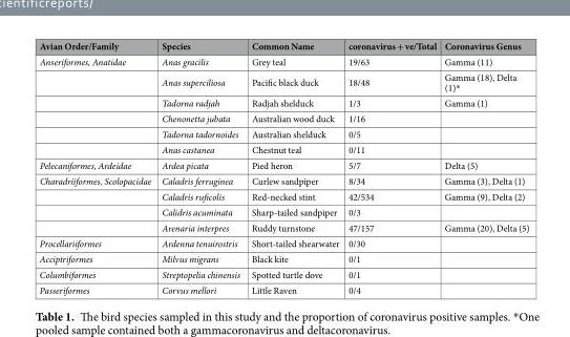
<table><thead><tr><td>Avian Order/Family</td><td>Species</td><td>Common Name</td><td>coronavirus + ve/Total</td><td>Coronavirus Genus</td></tr></thead><tbody><tr><td rowspan="6">Anseriformes, Anatidae</td><td>Anas gracilis</td><td>Grey teal</td><td>19/63</td><td>Gamma (11)</td></tr><tr><td>Anas superciliosa</td><td>Pacific black duck</td><td>18/48</td><td>Gamma (18), Delta (1)*</td></tr><tr><td>Tadorna radjah</td><td>Radjah shelduck</td><td>1/3</td><td>Gamma (1)</td></tr><tr><td>Chenonetta jubata</td><td>Australian wood duck</td><td>1/16</td><td></td></tr><tr><td>Tadorna tadornoides</td><td>Australian shelduck</td><td>0/5</td><td></td></tr><tr><td>Anas castanea</td><td>Chestnut teal</td><td>0/11</td><td></td></tr><tr><td>Pelecaniformes, Ardeidae</td><td>Ardea picata</td><td>Pied heron</td><td>5/7</td><td>Delta (5)</td></tr><tr><td rowspan="4">Charadriiformes, Scolopacidae</td><td>Caladris ferruginea</td><td>Curlew sandpiper</td><td>8/34</td><td>Gamma (3), Delta (1)</td></tr><tr><td>Caladris ruficolis</td><td>Red-necked stint</td><td>42/534</td><td>Gamma (9), Delta (2)</td></tr><tr><td>Calidris acuminata</td><td>Sharp-tailed sandpiper</td><td>0/3</td><td></td></tr><tr><td>Arenaria interpres</td><td>Ruddy turnstone</td><td>47/157</td><td>Gamma (20), Delta (5)</td></tr><tr><td>Procellariiformes</td><td>Ardenna tenuirostris</td><td>Short-tailed shearwater</td><td>0/30</td><td></td></tr><tr><td>Acciptriformes</td><td>Milvus migrans</td><td>Black kite</td><td>0/1</td><td></td></tr><tr><td>Columbiformes</td><td>Streptopelia chinensis</td><td>Spotted turtle dove</td><td>0/1</td><td></td></tr><tr><td>Passeriformes</td><td>Corvus mellori</td><td>Little Raven</td><td>0/4</td><td></td></tr></tbody></table>